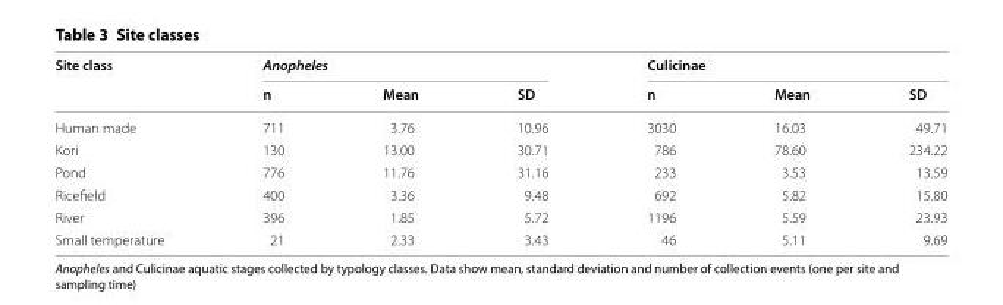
<table><thead><tr><td rowspan="2">Site class</td><td colspan="3">Anopheles</td><td colspan="3">Culicinae</td></tr><tr><td>n</td><td>Mean</td><td>SD</td><td>n</td><td>Mean</td><td>SD</td></tr></thead><tbody><tr><td>Human made</td><td>711</td><td>3.76</td><td>10.96</td><td>3030</td><td>16.03</td><td>49.71</td></tr><tr><td>Kori</td><td>130</td><td>13.00</td><td>30.71</td><td>786</td><td>78.60</td><td>234.22</td></tr><tr><td>Pond</td><td>776</td><td>11.76</td><td>31.16</td><td>233</td><td>3.53</td><td>13.59</td></tr><tr><td>Ricefield</td><td>400</td><td>3.36</td><td>9.48</td><td>692</td><td>5.82</td><td>15.80</td></tr><tr><td>River</td><td>396</td><td>1.85</td><td>5.72</td><td>1196</td><td>5.59</td><td>23.93</td></tr><tr><td>Small temperature</td><td>21</td><td>2.33</td><td>3.43</td><td>46</td><td>5.11</td><td>9.69</td></tr></tbody></table>